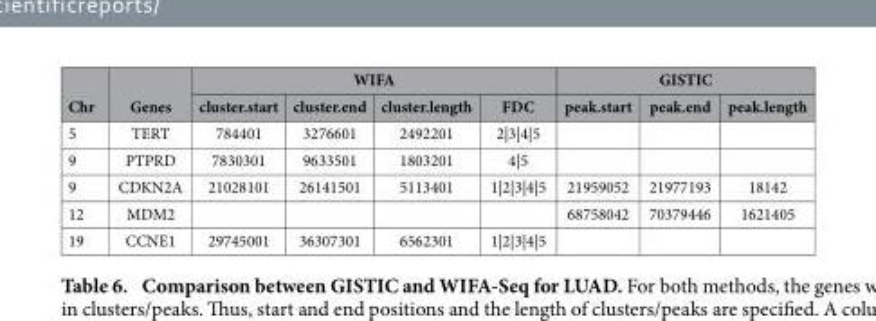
<table><thead><tr><td rowspan="2">Chr</td><td rowspan="2">Genes</td><td colspan="4">WIFA</td><td colspan="3">GISTIC</td></tr><tr><td>cluster.start</td><td>cluster.end</td><td>cluster.length</td><td>FDC</td><td>peak.start</td><td>peak.end</td><td>peak.length</td></tr></thead><tbody><tr><td>5</td><td>TERT</td><td>784401</td><td>3276601</td><td>2492201</td><td>2|3|4|5</td><td></td><td></td><td></td></tr><tr><td>9</td><td>PTPRD</td><td>7830301</td><td>9633501</td><td>1803201</td><td>4|5</td><td></td><td></td><td></td></tr><tr><td>9</td><td>CDKN2A</td><td>21028101</td><td>26141501</td><td>5113401</td><td>1|2|3|4|5</td><td>21959052</td><td>21977193</td><td>18142</td></tr><tr><td>12</td><td>MDM2</td><td></td><td></td><td></td><td></td><td>68758042</td><td>70379446</td><td>1621405</td></tr><tr><td>19</td><td>CCNE1</td><td>29745001</td><td>36307301</td><td>6562301</td><td>1|2|3|4|5</td><td></td><td></td><td></td></tr></tbody></table>